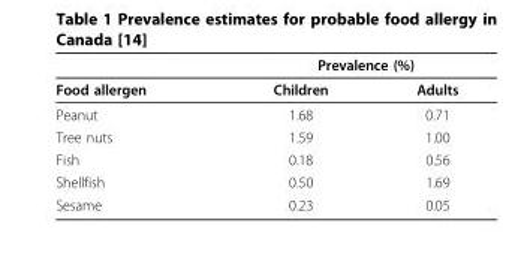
<table><thead><tr><td rowspan="2">Food allergen</td><td colspan="2">Prevalence (%)</td></tr><tr><td>Children</td><td>Adults</td></tr></thead><tbody><tr><td>Peanut</td><td>1.68</td><td>0.71</td></tr><tr><td>Tree nuts</td><td>1.59</td><td>1.00</td></tr><tr><td>Fish</td><td>0.18</td><td>0.56</td></tr><tr><td>Shellfish</td><td>0.50</td><td>1.69</td></tr><tr><td>Sesame</td><td>0.23</td><td>0.05</td></tr></tbody></table>